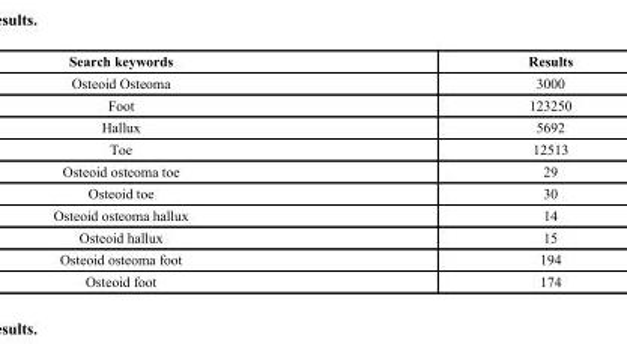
<table><thead><tr><td>Search keywords</td><td>Results</td></tr></thead><tbody><tr><td>Osteoid Osteoma</td><td>3000</td></tr><tr><td>Foot</td><td>123250</td></tr><tr><td>Hallux</td><td>5692</td></tr><tr><td>Toe</td><td>12513</td></tr><tr><td>Osteoid osteoma toe</td><td>29</td></tr><tr><td>Osteoid toe</td><td>30</td></tr><tr><td>Osteoid osteoma hallux</td><td>14</td></tr><tr><td>Osteoid hallux</td><td>15</td></tr><tr><td>Osteoid osteoma foot</td><td>194</td></tr><tr><td>Osteoid foot</td><td>174</td></tr></tbody></table>